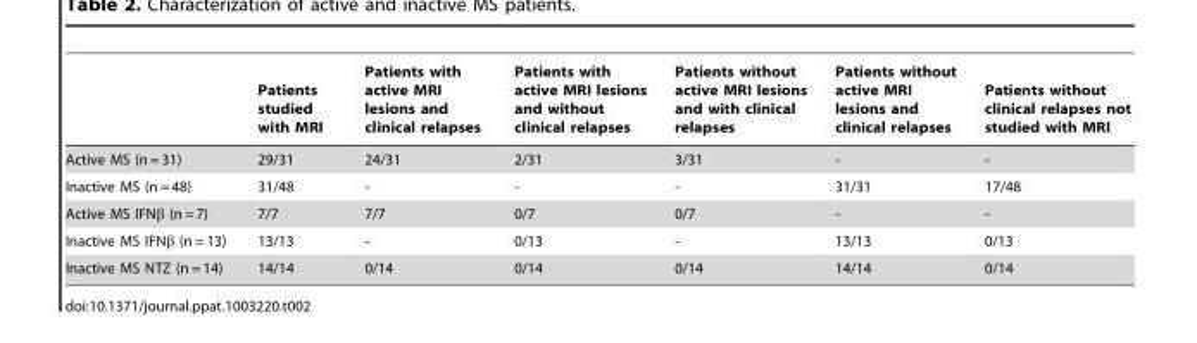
<table><thead><tr><td></td><td>Patients studied with MRI</td><td>Patients with active MRI lesions and clinical relapses</td><td>Patients with active MRI lesions and without clinical relapses</td><td>Patients without active MRI lesions and with clinical relapses</td><td>Patients without active MRI lesions and clinical relapses</td><td>Patients without clinical relapses not studied with MRI</td></tr></thead><tbody><tr><td>Active MS (n = 31)</td><td>29/31</td><td>24/31</td><td>2/31</td><td>3/31</td><td>-</td><td>-</td></tr><tr><td>Inactive MS (n = 48)</td><td>31/48</td><td>-</td><td>-</td><td>-</td><td>31/31</td><td>17/48</td></tr><tr><td>Active MS IFNβ (n = 7)</td><td>7/7</td><td>7/7</td><td>0/7</td><td>0/7</td><td>-</td><td>-</td></tr><tr><td>Inactive MS IFNβ (n = 13)</td><td>13/13</td><td>-</td><td>0/13</td><td>-</td><td>13/13</td><td>0/13</td></tr><tr><td>Inactive MS NTZ (n = 14)</td><td>14/14</td><td>0/14</td><td>0/14</td><td>0/14</td><td>14/14</td><td>0/14</td></tr></tbody></table>